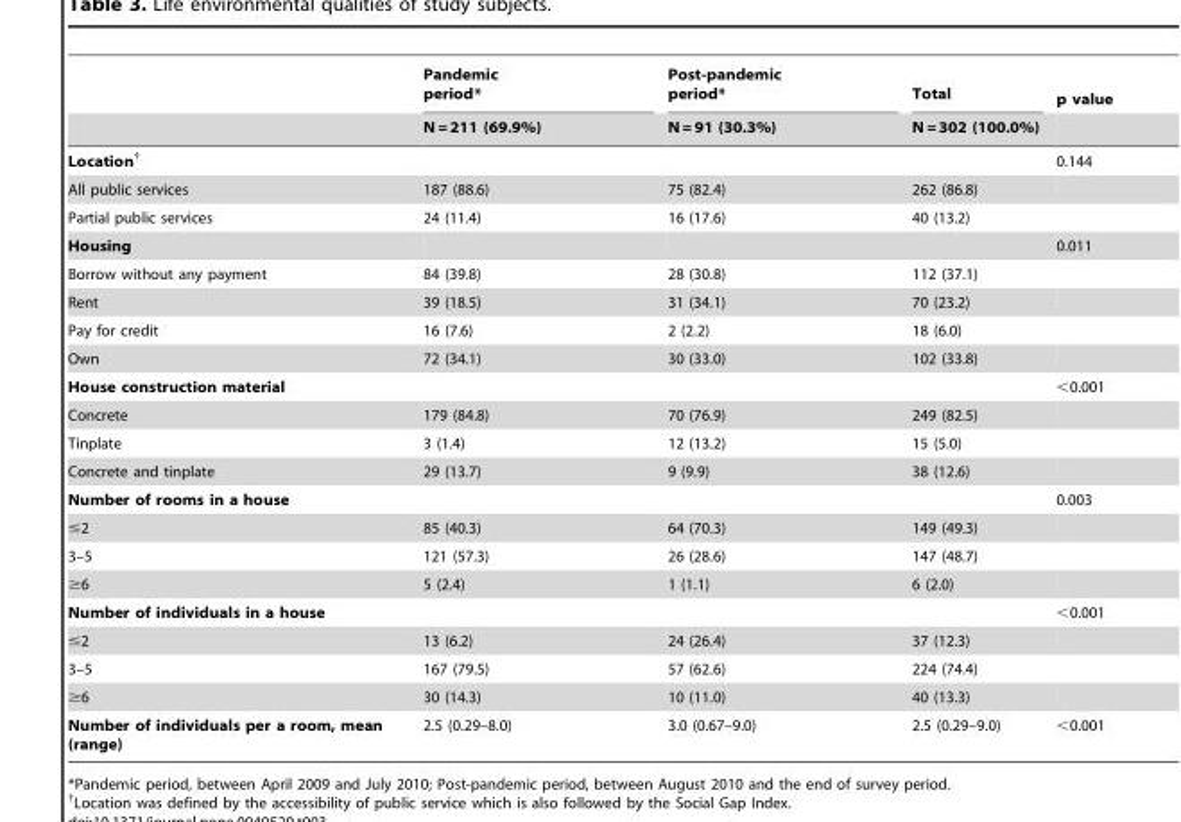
<table><thead><tr><td rowspan="2"></td><td rowspan="2">Pandemic period* N = 211 (69.9%)</td><td rowspan="2">Post-pandemic period* N = 91 (30.3%)</td><td rowspan="2">Total N = 302 (100.0%)</td><td rowspan="2">p value</td></tr><tr></tr></thead><tbody><tr><td>Location†</td><td></td><td></td><td></td><td>0.144</td></tr><tr><td>All public services</td><td>187 (88.6)</td><td>75 (82.4)</td><td>262 (86.8)</td><td></td></tr><tr><td>Partial public services</td><td>24 (11.4)</td><td>16 (17.6)</td><td>40 (13.2)</td><td></td></tr><tr><td>Housing</td><td></td><td></td><td></td><td>0.011</td></tr><tr><td>Borrow without any payment</td><td>84 (39.8)</td><td>28 (30.8)</td><td>112 (37.1)</td><td></td></tr><tr><td>Rent</td><td>39 (18.5)</td><td>31 (34.1)</td><td>70 (23.2)</td><td></td></tr><tr><td>Pay for credit</td><td>16 (7.6)</td><td>2 (2.2)</td><td>18 (6.0)</td><td></td></tr><tr><td>Own</td><td>72 (34.1)</td><td>30 (33.0)</td><td>102 (33.8)</td><td></td></tr><tr><td>House construction material</td><td></td><td></td><td></td><td>&lt;0.001</td></tr><tr><td>Concrete</td><td>179 (84.8)</td><td>70 (76.9)</td><td>249 (82.5)</td><td></td></tr><tr><td>Tinplate</td><td>3 (1.4)</td><td>12 (13.2)</td><td>15 (5.0)</td><td></td></tr><tr><td>Concrete and tinplate</td><td>29 (13.7)</td><td>9 (9.9)</td><td>38 (12.6)</td><td></td></tr><tr><td>Number of rooms in a house</td><td></td><td></td><td></td><td>0.003</td></tr><tr><td>≤2</td><td>85 (40.3)</td><td>64 (70.3)</td><td>149 (49.3)</td><td></td></tr><tr><td>3–5</td><td>121 (57.3)</td><td>26 (28.6)</td><td>147 (48.7)</td><td></td></tr><tr><td>≥6</td><td>5 (2.4)</td><td>1 (1.1)</td><td>6 (2.0)</td><td></td></tr><tr><td>Number of individuals in a house</td><td></td><td></td><td></td><td>&lt;0.001</td></tr><tr><td>≤2</td><td>13 (6.2)</td><td>24 (26.4)</td><td>37 (12.3)</td><td></td></tr><tr><td>3–5</td><td>167 (79.5)</td><td>57 (62.6)</td><td>224 (74.4)</td><td></td></tr><tr><td>≥6</td><td>30 (14.3)</td><td>10 (11.0)</td><td>40 (13.3)</td><td></td></tr><tr><td>Number of individuals per a room, mean (range)</td><td>2.5 (0.29–8.0)</td><td>3.0 (0.67–9.0)</td><td>2.5 (0.29–9.0)</td><td>&lt;0.001</td></tr></tbody></table>